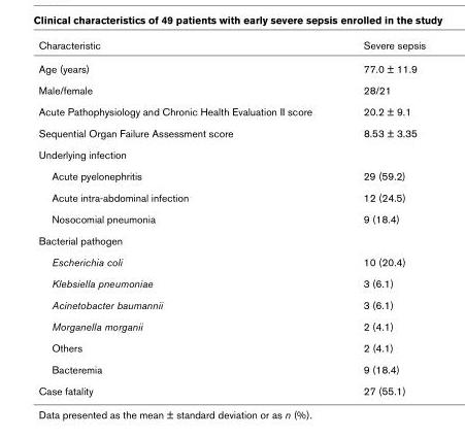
<table><thead><tr><td>Characteristic</td><td>Severe sepsis</td></tr></thead><tbody><tr><td>Age (years)</td><td>77.0 ± 11.9</td></tr><tr><td>Male/female</td><td>28/21</td></tr><tr><td>Acute Pathophysiology and Chronic Health Evaluation II score</td><td>20.2 ± 9.1</td></tr><tr><td>Sequential Organ Failure Assessment score</td><td>8.53 ± 3.35</td></tr><tr><td colspan="2">Underlying infection</td></tr><tr><td>Acute pyelonephritis</td><td>29 (59.2)</td></tr><tr><td>Acute intra-abdominal infection</td><td>12 (24.5)</td></tr><tr><td>Nosocomial pneumonia</td><td>9 (18.4)</td></tr><tr><td colspan="2">Bacterial pathogen</td></tr><tr><td>Escherichia coli</td><td>10 (20.4)</td></tr><tr><td>Klebsiella pneumoniae</td><td>3 (6.1)</td></tr><tr><td>Acinetobacter baumannii</td><td>3 (6.1)</td></tr><tr><td>Morganella morganii</td><td>2 (4.1)</td></tr><tr><td>Others</td><td>2 (4.1)</td></tr><tr><td>Bacteremia</td><td>9 (18.4)</td></tr><tr><td>Case fatality</td><td>27 (55.1)</td></tr></tbody></table>